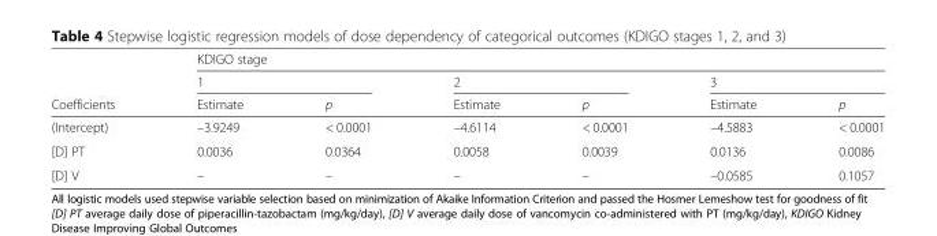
<table><thead><tr><td rowspan="3">Coefficients</td><td colspan="6">KDIGO stage</td></tr><tr><td colspan="2">1</td><td colspan="2">2</td><td colspan="2">3</td></tr><tr><td>Estimate</td><td>p</td><td>Estimate</td><td>p</td><td>Estimate</td><td>p</td></tr></thead><tbody><tr><td>(Intercept)</td><td>–3.9249</td><td>&lt; 0.0001</td><td>–4.6114</td><td>&lt; 0.0001</td><td>–4.5883</td><td>&lt; 0.0001</td></tr><tr><td>[D] PT</td><td>0.0036</td><td>0.0364</td><td>0.0058</td><td>0.0039</td><td>0.0136</td><td>0.0086</td></tr><tr><td>[D] V</td><td>–</td><td>–</td><td>–</td><td>–</td><td>–0.0585</td><td>0.1057</td></tr></tbody></table>